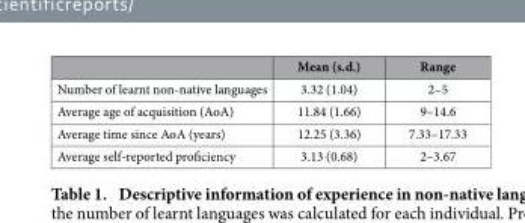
<table><thead><tr><td></td><td>Mean (s.d.)</td><td>Range</td></tr></thead><tbody><tr><td>Number of learnt non-native languages</td><td>3.32 (1.04)</td><td>2–5</td></tr><tr><td>Average age of acquisition (AoA)</td><td>11.84 (1.66)</td><td>9–14.6</td></tr><tr><td>Average time since AoA (years)</td><td>12.25 (3.36)</td><td>7.33–17.33</td></tr><tr><td>Average self-reported proficiency</td><td>3.13 (0.68)</td><td>2–3.67</td></tr></tbody></table>